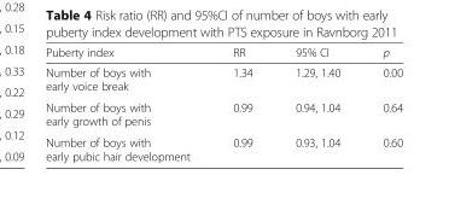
<table><thead><tr><td>Puberty index</td><td>RR</td><td>95% CI</td><td>p</td></tr></thead><tbody><tr><td>Number of boys with early voice break</td><td>1.34</td><td>1.29, 1.40</td><td>0.00</td></tr><tr><td>Number of boys with early growth of penis</td><td>0.99</td><td>0.94, 1.04</td><td>0.64</td></tr><tr><td>Number of boys with early pubic hair development</td><td>0.99</td><td>0.93, 1.04</td><td>0.60</td></tr></tbody></table>